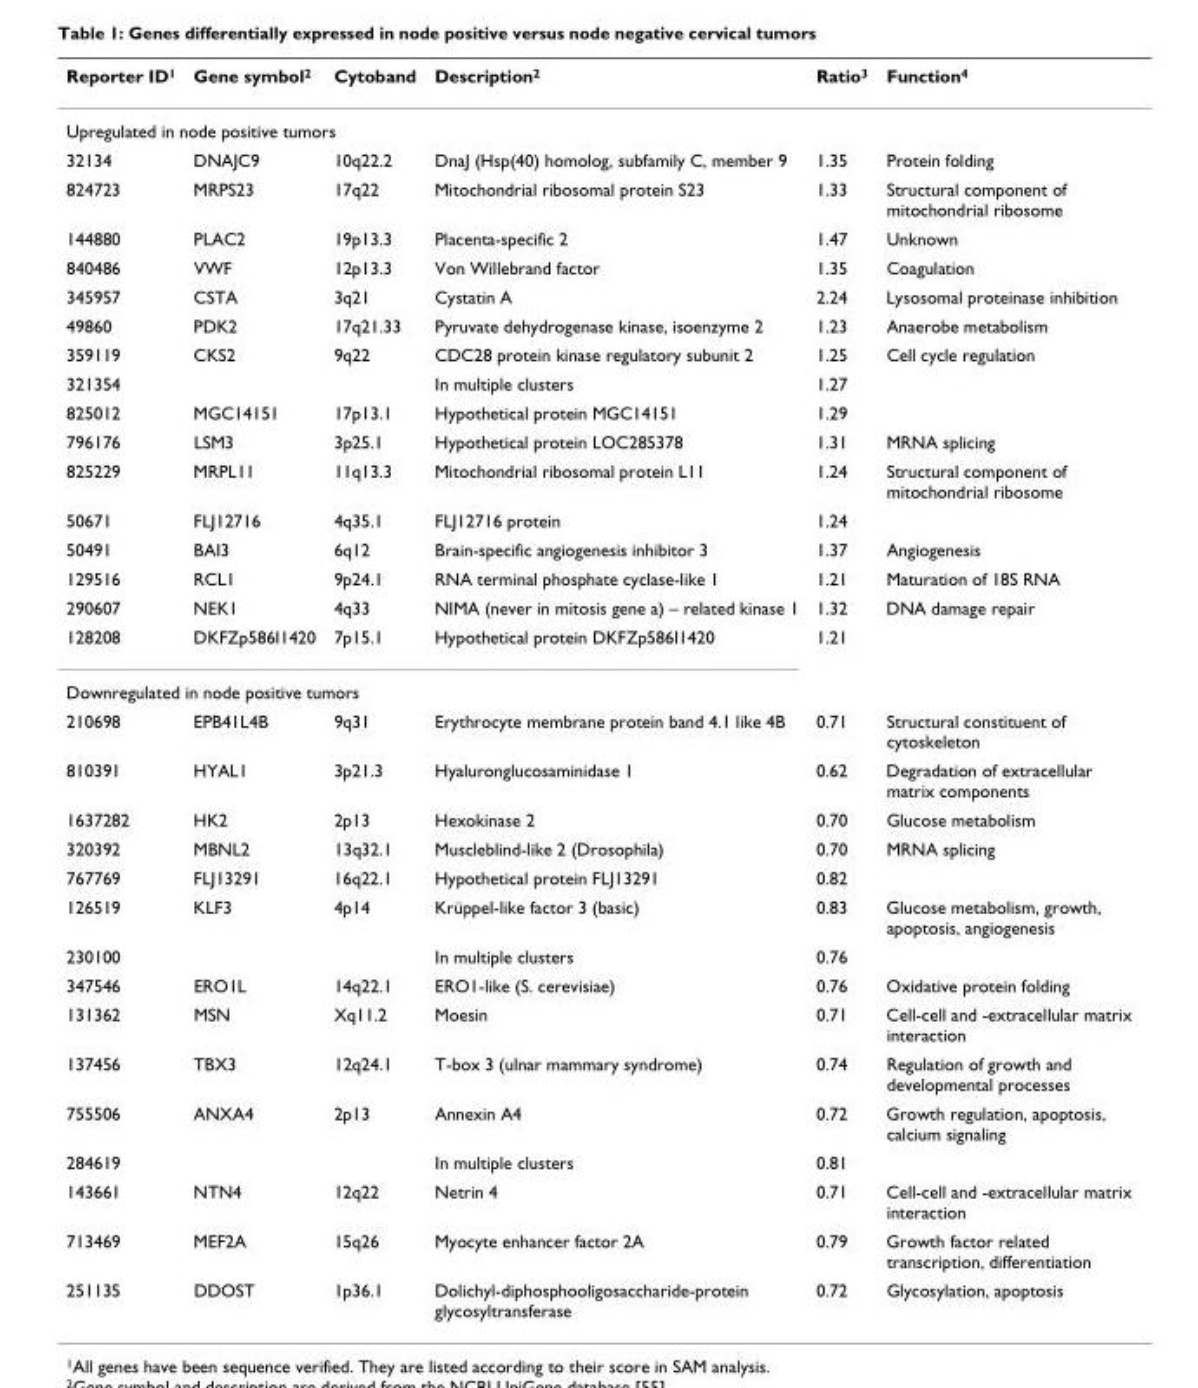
<table><thead><tr><td>Reporter ID1</td><td>Gene symbol2</td><td>Cytoband</td><td>Description2</td><td>Ratio3</td><td>Function4</td></tr></thead><tbody><tr><td colspan="6">Upregulated in node positive tumors</td></tr><tr><td>32134</td><td>DNAJC9</td><td>10q22.2</td><td>DnaJ (Hsp(40) homolog, subfamily C, member 9</td><td>1.35</td><td>Protein folding</td></tr><tr><td>824723</td><td>MRPS23</td><td>17q22</td><td>Mitochondrial ribosomal protein S23</td><td>1.33</td><td>Structural component of mitochondrial ribosome</td></tr><tr><td>144880</td><td>PLAC2</td><td>19p13.3</td><td>Placenta-specific 2</td><td>1.47</td><td>Unknown</td></tr><tr><td>840486</td><td>VWF</td><td>12p13.3</td><td>Von Willebrand factor</td><td>1.35</td><td>Coagulation</td></tr><tr><td>345957</td><td>CSTA</td><td>3q21</td><td>Cystatin A</td><td>2.24</td><td>Lysosomal proteinase inhibition</td></tr><tr><td>49860</td><td>PDK2</td><td>17q21.33</td><td>Pyruvate dehydrogenase kinase, isoenzyme 2</td><td>1.23</td><td>Anaerobe metabolism</td></tr><tr><td>359119</td><td>CKS2</td><td>9q22</td><td>CDC28 protein kinase regulatory subunit 2</td><td>1.25</td><td>Cell cycle regulation</td></tr><tr><td>321354</td><td></td><td></td><td>In multiple clusters</td><td>1.27</td><td></td></tr><tr><td>825012</td><td>MGC14151</td><td>17p13.1</td><td>Hypothetical protein MGC14151</td><td>1.29</td><td></td></tr><tr><td>796176</td><td>LSM3</td><td>3p25.1</td><td>Hypothetical protein LOC285378</td><td>1.31</td><td>MRNA splicing</td></tr><tr><td>825229</td><td>MRPL11</td><td>11q13.3</td><td>Mitochondrial ribosomal protein L11</td><td>1.24</td><td>Structural component of mitochondrial ribosome</td></tr><tr><td>50671</td><td>FLJ12716</td><td>4q35.1</td><td>FLJ12716 protein</td><td>1.24</td><td></td></tr><tr><td>50491</td><td>BAI3</td><td>6q12</td><td>Brain-specific angiogenesis inhibitor 3</td><td>1.37</td><td>Angiogenesis</td></tr><tr><td>129516</td><td>RCL1</td><td>9p24.1</td><td>RNA terminal phosphate cyclase-like 1</td><td>1.21</td><td>Maturation of 18S RNA</td></tr><tr><td>290607</td><td>NEK1</td><td>4q33</td><td>NIMA (never in mitosis gene a) – related kinase 1</td><td>1.32</td><td>DNA damage repair</td></tr><tr><td>128208</td><td>DKFZp586I1420</td><td>7p15.1</td><td>Hypothetical protein DKFZp586I1420</td><td>1.21</td><td></td></tr><tr><td colspan="6">Downregulated in node positive tumors</td></tr><tr><td>210698</td><td>EPB41L4B</td><td>9q31</td><td>Erythrocyte membrane protein band 4.1 like 4B</td><td>0.71</td><td>Structural constituent of cytoskeleton</td></tr><tr><td>810391</td><td>HYAL1</td><td>3p21.3</td><td>Hyaluronglucosaminidase 1</td><td>0.62</td><td>Degradation of extracellular matrix components</td></tr><tr><td>1637282</td><td>HK2</td><td>2p13</td><td>Hexokinase 2</td><td>0.70</td><td>Glucose metabolism</td></tr><tr><td>320392</td><td>MBNL2</td><td>13q32.1</td><td>Muscleblind-like 2 (Drosophila)</td><td>0.70</td><td>MRNA splicing</td></tr><tr><td>767769</td><td>FLJ13291</td><td>16q22.1</td><td>Hypothetical protein FLJ13291</td><td>0.82</td><td></td></tr><tr><td>126519</td><td>KLF3</td><td>4p14</td><td>Krüppel-like factor 3 (basic)</td><td>0.83</td><td>Glucose metabolism, growth, apoptosis, angiogenesis</td></tr><tr><td>230100</td><td></td><td></td><td>In multiple clusters</td><td>0.76</td><td></td></tr><tr><td>347546</td><td>ERO1L</td><td>14q22.1</td><td>ERO1-like (S. cerevisiae)</td><td>0.76</td><td>Oxidative protein folding</td></tr><tr><td>131362</td><td>MSN</td><td>Xq11.2</td><td>Moesin</td><td>0.71</td><td>Cell-cell and -extracellular matrix interaction</td></tr><tr><td>137456</td><td>TBX3</td><td>12q24.1</td><td>T-box 3 (ulnar mammary syndrome)</td><td>0.74</td><td>Regulation of growth and developmental processes</td></tr><tr><td>755506</td><td>ANXA4</td><td>2p13</td><td>Annexin A4</td><td>0.72</td><td>Growth regulation, apoptosis, calcium signaling</td></tr><tr><td>284619</td><td></td><td></td><td>In multiple clusters</td><td>0.81</td><td></td></tr><tr><td>143661</td><td>NTN4</td><td>12q22</td><td>Netrin 4</td><td>0.71</td><td>Cell-cell and -extracellular matrix interaction</td></tr><tr><td>713469</td><td>MEF2A</td><td>15q26</td><td>Myocyte enhancer factor 2A</td><td>0.79</td><td>Growth factor related transcription, differentiation</td></tr><tr><td>251135</td><td>DDOST</td><td>1p36.1</td><td>Dolichyl-diphosphooligosaccharide-protein glycosyltransferase</td><td>0.72</td><td>Glycosylation, apoptosis</td></tr></tbody></table>